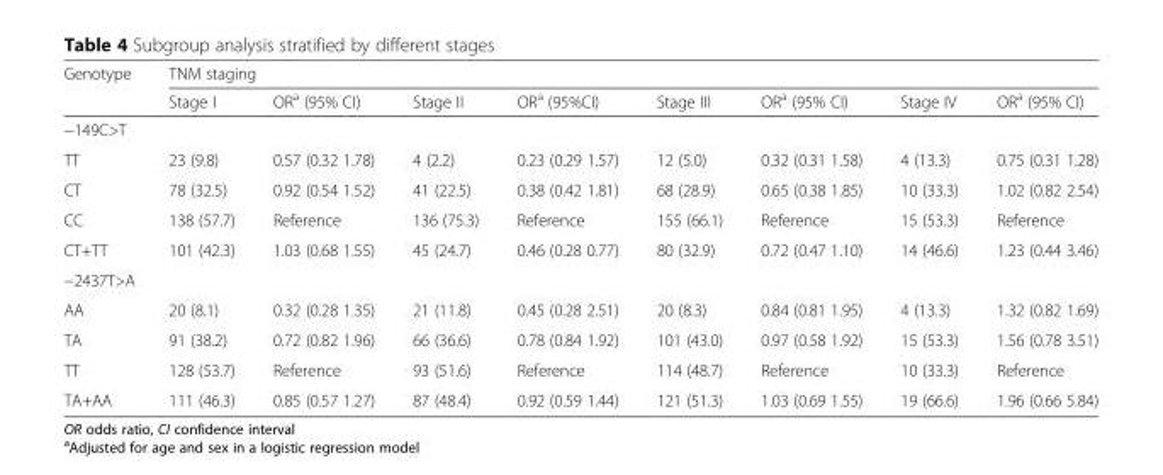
<table><thead><tr><td rowspan="2">Genotype</td><td colspan="8">TNM staging</td></tr><tr><td>Stage I</td><td>OR<sup>a</sup> (95% CI)</td><td>Stage II</td><td>OR<sup>a</sup> (95%CI)</td><td>Stage III</td><td>OR<sup>a</sup> (95% CI)</td><td>Stage IV</td><td>OR<sup>a</sup> (95% CI)</td></tr></thead><tbody><tr><td colspan="9">−149C&gt;T</td></tr><tr><td>TT</td><td>23 (9.8)</td><td>0.57 (0.32 1.78)</td><td>4 (2.2)</td><td>0.23 (0.29 1.57)</td><td>12 (5.0)</td><td>0.32 (0.31 1.58)</td><td>4 (13.3)</td><td>0.75 (0.31 1.28)</td></tr><tr><td>CT</td><td>78 (32.5)</td><td>0.92 (0.54 1.52)</td><td>41 (22.5)</td><td>0.38 (0.42 1.81)</td><td>68 (28.9)</td><td>0.65 (0.38 1.85)</td><td>10 (33.3)</td><td>1.02 (0.82 2.54)</td></tr><tr><td>CC</td><td>138 (57.7)</td><td>Reference</td><td>136 (75.3)</td><td>Reference</td><td>155 (66.1)</td><td>Reference</td><td>15 (53.3)</td><td>Reference</td></tr><tr><td>CT+TT</td><td>101 (42.3)</td><td>1.03 (0.68 1.55)</td><td>45 (24.7)</td><td>0.46 (0.28 0.77)</td><td>80 (32.9)</td><td>0.72 (0.47 1.10)</td><td>14 (46.6)</td><td>1.23 (0.44 3.46)</td></tr><tr><td colspan="9">−2437T&gt;A</td></tr><tr><td>AA</td><td>20 (8.1)</td><td>0.32 (0.28 1.35)</td><td>21 (11.8)</td><td>0.45 (0.28 2.51)</td><td>20 (8.3)</td><td>0.84 (0.81 1.95)</td><td>4 (13.3)</td><td>1.32 (0.82 1.69)</td></tr><tr><td>TA</td><td>91 (38.2)</td><td>0.72 (0.82 1.96)</td><td>66 (36.6)</td><td>0.78 (0.84 1.92)</td><td>101 (43.0)</td><td>0.97 (0.58 1.92)</td><td>15 (53.3)</td><td>1.56 (0.78 3.51)</td></tr><tr><td>TT</td><td>128 (53.7)</td><td>Reference</td><td>93 (51.6)</td><td>Reference</td><td>114 (48.7)</td><td>Reference</td><td>10 (33.3)</td><td>Reference</td></tr><tr><td>TA+AA</td><td>111 (46.3)</td><td>0.85 (0.57 1.27)</td><td>87 (48.4)</td><td>0.92 (0.59 1.44)</td><td>121 (51.3)</td><td>1.03 (0.69 1.55)</td><td>19 (66.6)</td><td>1.96 (0.66 5.84)</td></tr></tbody></table>